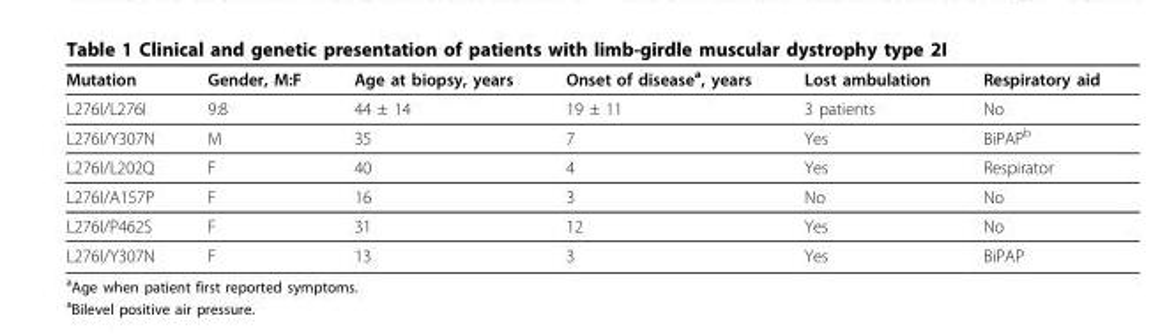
<table><thead><tr><td>Mutation</td><td>Gender, M:F</td><td>Age at biopsy, years</td><td>Onset of disease<sup>a</sup>, years</td><td>Lost ambulation</td><td>Respiratory aid</td></tr></thead><tbody><tr><td>L276I/L276I</td><td>9:8</td><td>44 ± 14</td><td>19 ± 11</td><td>3 patients</td><td>No</td></tr><tr><td>L276I/Y307N</td><td>M</td><td>35</td><td>7</td><td>Yes</td><td>BiPAP<sup>b</sup></td></tr><tr><td>L276I/L202Q</td><td>F</td><td>40</td><td>4</td><td>Yes</td><td>Respirator</td></tr><tr><td>L276I/A157P</td><td>F</td><td>16</td><td>3</td><td>No</td><td>No</td></tr><tr><td>L276I/P462S</td><td>F</td><td>31</td><td>12</td><td>Yes</td><td>No</td></tr><tr><td>L276I/Y307N</td><td>F</td><td>13</td><td>3</td><td>Yes</td><td>BiPAP</td></tr></tbody></table>